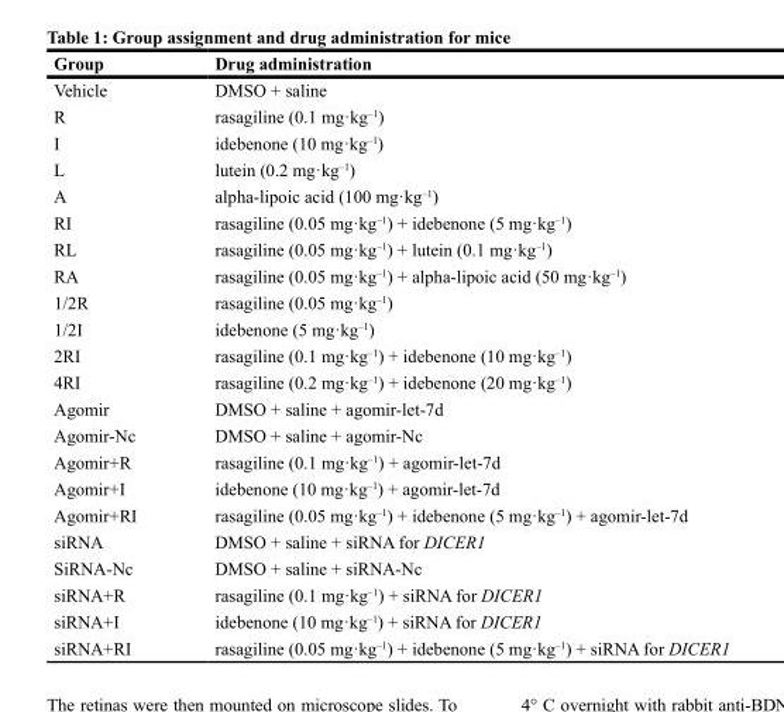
<table><thead><tr><td>Group</td><td>Drug administration</td></tr></thead><tbody><tr><td>Vehicle</td><td>DMSO + saline</td></tr><tr><td>R</td><td>rasagiline (0.1 mg·kg<sup>–1</sup>)</td></tr><tr><td>I</td><td>idebenone (10 mg·kg<sup>–1</sup>)</td></tr><tr><td>L</td><td>lutein (0.2 mg·kg<sup>–1</sup>)</td></tr><tr><td>A</td><td>alpha-lipoic acid (100 mg·kg<sup>–1</sup>)</td></tr><tr><td>RI</td><td>rasagiline (0.05 mg·kg<sup>–1</sup>) + idebenone (5 mg·kg<sup>–1</sup>)</td></tr><tr><td>RL</td><td>rasagiline (0.05 mg·kg<sup>–1</sup>) + lutein (0.1 mg·kg<sup>–1</sup>)</td></tr><tr><td>RA</td><td>rasagiline (0.05 mg·kg<sup>–1</sup>) + alpha-lipoic acid (50 mg·kg<sup>–1</sup>)</td></tr><tr><td>1/2R</td><td>rasagiline (0.05 mg·kg<sup>–1</sup>)</td></tr><tr><td>1/2I</td><td>idebenone (5 mg·kg<sup>–1</sup>)</td></tr><tr><td>2RI</td><td>rasagiline (0.1 mg·kg<sup>–1</sup>) + idebenone (10 mg·kg<sup>–1</sup>)</td></tr><tr><td>4RI</td><td>rasagiline (0.2 mg·kg<sup>–1</sup>) + idebenone (20 mg·kg<sup>–1</sup>)</td></tr><tr><td>Agomir</td><td>DMSO + saline + agomir-let-7d</td></tr><tr><td>Agomir-Nc</td><td>DMSO + saline + agomir-Nc</td></tr><tr><td>Agomir+R</td><td>rasagiline (0.1 mg·kg<sup>–1</sup>) + agomir-let-7d</td></tr><tr><td>Agomir+I</td><td>idebenone (10 mg·kg<sup>–1</sup>) + agomir-let-7d</td></tr><tr><td>Agomir+RI</td><td>rasagiline (0.05 mg·kg<sup>–1</sup>) + idebenone (5 mg·kg<sup>–1</sup>) + agomir-let-7d</td></tr><tr><td>siRNA</td><td>DMSO + saline + siRNA for DICER1</td></tr><tr><td>SiRNA-Nc</td><td>DMSO + saline + siRNA-Nc</td></tr><tr><td>siRNA+R</td><td>rasagiline (0.1 mg·kg<sup>–1</sup>) + siRNA for DICER1</td></tr><tr><td>siRNA+I</td><td>idebenone (10 mg·kg<sup>–1</sup>) + siRNA for DICER1</td></tr><tr><td>siRNA+RI</td><td>rasagiline (0.05 mg·kg<sup>–1</sup>) + idebenone (5 mg·kg<sup>–1</sup>) + siRNA for DICER1</td></tr></tbody></table>